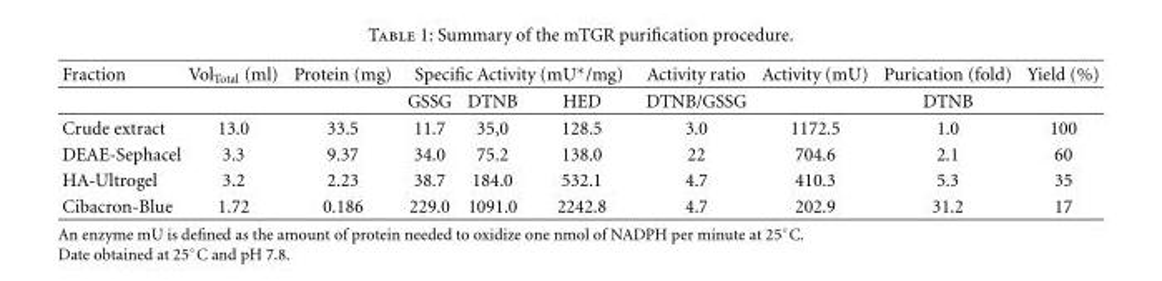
<table><thead><tr><td rowspan="2">Fraction</td><td rowspan="2">VolTotal (ml)</td><td rowspan="2">Protein (mg)</td><td colspan="3">Specific Activity (mU∗/mg)</td><td rowspan="2">Activity ratio DTNB/GSSG</td><td rowspan="2">Activity (mU)</td><td rowspan="2">Purication (fold) DTNB</td><td rowspan="2">Yield (%)</td></tr><tr><td>GSSG</td><td>DTNB</td><td>HED</td></tr></thead><tbody><tr><td>Crude extract</td><td>13.0</td><td>33.5</td><td>11.7</td><td>35,0</td><td>128.5</td><td>3.0</td><td>1172.5</td><td>1.0</td><td>100</td></tr><tr><td>DEAE-Sephacel</td><td>3.3</td><td>9.37</td><td>34.0</td><td>75.2</td><td>138.0</td><td>22</td><td>704.6</td><td>2.1</td><td>60</td></tr><tr><td>HA-Ultrogel</td><td>3.2</td><td>2.23</td><td>38.7</td><td>184.0</td><td>532.1</td><td>4.7</td><td>410.3</td><td>5.3</td><td>35</td></tr><tr><td>Cibacron-Blue</td><td>1.72</td><td>0.186</td><td>229.0</td><td>1091.0</td><td>2242.8</td><td>4.7</td><td>202.9</td><td>31.2</td><td>17</td></tr></tbody></table>